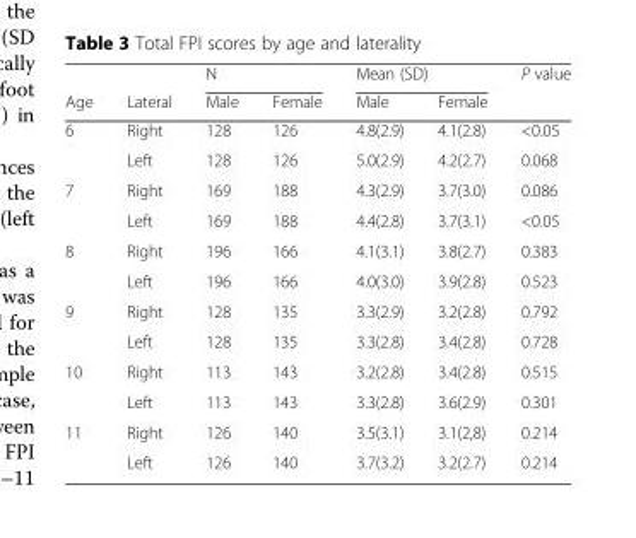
<table><thead><tr><td rowspan="2">Age</td><td rowspan="2">Lateral</td><td colspan="2">N</td><td colspan="2">Mean (SD)</td><td rowspan="2">P value</td></tr><tr><td>Male</td><td>Female</td><td>Male</td><td>Female</td></tr></thead><tbody><tr><td rowspan="2">6</td><td>Right</td><td>128</td><td>126</td><td>4.8(2.9)</td><td>4.1(2.8)</td><td>&lt;0.05</td></tr><tr><td>Left</td><td>128</td><td>126</td><td>5.0(2.9)</td><td>4.2(2.7)</td><td>0.068</td></tr><tr><td rowspan="2">7</td><td>Right</td><td>169</td><td>188</td><td>4.3(2.9)</td><td>3.7(3.0)</td><td>0.086</td></tr><tr><td>Left</td><td>169</td><td>188</td><td>4.4(2.8)</td><td>3.7(3.1)</td><td>&lt;0.05</td></tr><tr><td rowspan="2">8</td><td>Right</td><td>196</td><td>166</td><td>4.1(3.1)</td><td>3.8(2.7)</td><td>0.383</td></tr><tr><td>Left</td><td>196</td><td>166</td><td>4.0(3.0)</td><td>3.9(2.8)</td><td>0.523</td></tr><tr><td rowspan="2">9</td><td>Right</td><td>128</td><td>135</td><td>3.3(2.9)</td><td>3.2(2.8)</td><td>0.792</td></tr><tr><td>Left</td><td>128</td><td>135</td><td>3.3(2.8)</td><td>3.4(2.8)</td><td>0.728</td></tr><tr><td rowspan="2">10</td><td>Right</td><td>113</td><td>143</td><td>3.2(2.8)</td><td>3.4(2.8)</td><td>0.515</td></tr><tr><td>Left</td><td>113</td><td>143</td><td>3.3(2.8)</td><td>3.6(2.9)</td><td>0.301</td></tr><tr><td rowspan="2">11</td><td>Right</td><td>126</td><td>140</td><td>3.5(3.1)</td><td>3.1(2,8)</td><td>0.214</td></tr><tr><td>Left</td><td>126</td><td>140</td><td>3.7(3.2)</td><td>3.2(2.7)</td><td>0.214</td></tr></tbody></table>